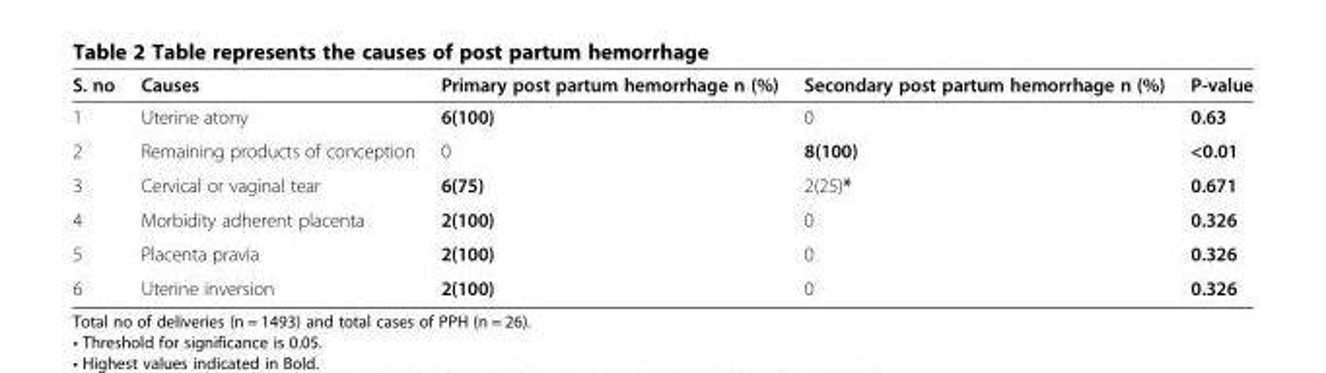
<table><thead><tr><td>S. no</td><td>Causes</td><td>Primary post partum hemorrhage n (%)</td><td>Secondary post partum hemorrhage n (%)</td><td>P-value</td></tr></thead><tbody><tr><td>1</td><td>Uterine atony</td><td>6(100)</td><td>0</td><td>0.63</td></tr><tr><td>2</td><td>Remaining products of conception</td><td>0</td><td>8(100)</td><td>&lt;0.01</td></tr><tr><td>3</td><td>Cervical or vaginal tear</td><td>6(75)</td><td>2(25)*</td><td>0.671</td></tr><tr><td>4</td><td>Morbidity adherent placenta</td><td>2(100)</td><td>0</td><td>0.326</td></tr><tr><td>5</td><td>Placenta pravia</td><td>2(100)</td><td>0</td><td>0.326</td></tr><tr><td>6</td><td>Uterine inversion</td><td>2(100)</td><td>0</td><td>0.326</td></tr></tbody></table>